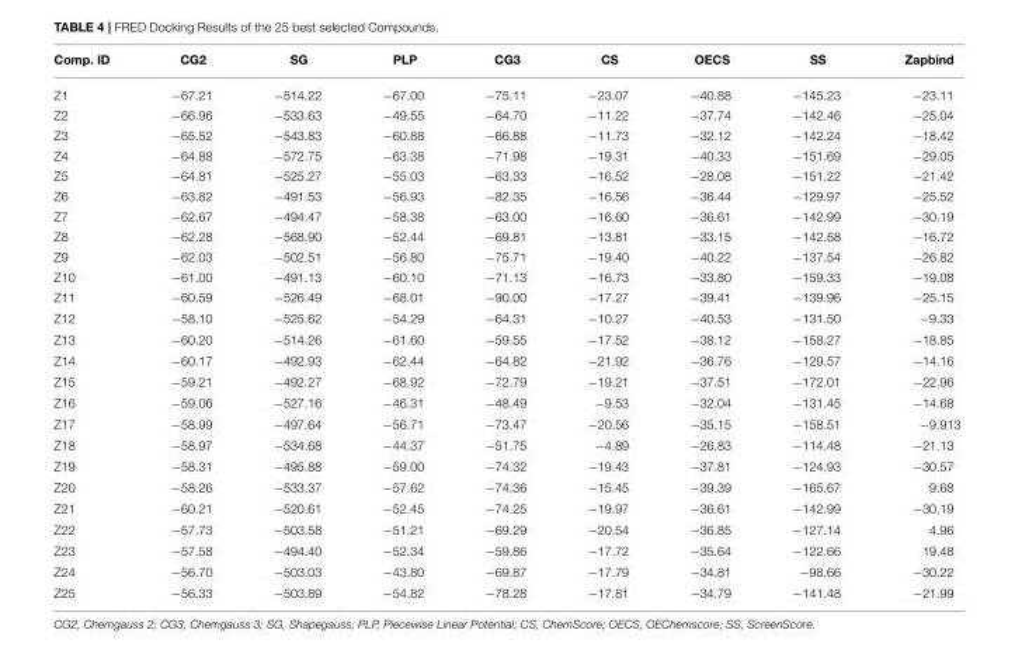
<table><thead><tr><td>Comp. ID</td><td>CG2</td><td>SG</td><td>PLP</td><td>CG3</td><td>CS</td><td>OECS</td><td>SS</td><td>Zapbind</td></tr></thead><tbody><tr><td>Z1</td><td>−67.21</td><td>−514.22</td><td>−67.00</td><td>−75.11</td><td>−23.07</td><td>−40.88</td><td>−145.23</td><td>−23.11</td></tr><tr><td>Z2</td><td>−66.96</td><td>−533.63</td><td>−49.55</td><td>−64.70</td><td>−11.22</td><td>−37.74</td><td>−142.46</td><td>−25.04</td></tr><tr><td>Z3</td><td>−65.52</td><td>−543.83</td><td>−60.88</td><td>−66.88</td><td>−11.73</td><td>−32.12</td><td>−142.24</td><td>−18.42</td></tr><tr><td>Z4</td><td>−64.88</td><td>−572.75</td><td>−63.38</td><td>−71.98</td><td>−19.31</td><td>−40.33</td><td>−151.69</td><td>−29.05</td></tr><tr><td>Z5</td><td>−64.81</td><td>−525.27</td><td>−55.03</td><td>−63.33</td><td>−16.52</td><td>−28.08</td><td>−151.22</td><td>−21.42</td></tr><tr><td>Z6</td><td>−63.82</td><td>−491.53</td><td>−56.93</td><td>−82.35</td><td>−16.56</td><td>−36.44</td><td>−129.97</td><td>−25.52</td></tr><tr><td>Z7</td><td>−62.67</td><td>−494.47</td><td>−58.38</td><td>−63.00</td><td>−16.60</td><td>−36.61</td><td>−142.99</td><td>−30.19</td></tr><tr><td>Z8</td><td>−62.28</td><td>−568.90</td><td>−52.44</td><td>−69.81</td><td>−13.81</td><td>−33.15</td><td>−142.58</td><td>−16.72</td></tr><tr><td>Z9</td><td>−62.03</td><td>−502.51</td><td>−56.80</td><td>−75.71</td><td>−19.40</td><td>−40.22</td><td>−137.54</td><td>−26.82</td></tr><tr><td>Z10</td><td>−61.00</td><td>−491.13</td><td>−60.10</td><td>−71.13</td><td>−16.73</td><td>−33.80</td><td>−159.33</td><td>−19.08</td></tr><tr><td>Z11</td><td>−60.59</td><td>−526.49</td><td>−68.01</td><td>−90.00</td><td>−17.27</td><td>−39.41</td><td>−139.96</td><td>−25.15</td></tr><tr><td>Z12</td><td>−58.10</td><td>−525.62</td><td>−54.29</td><td>−64.31</td><td>−10.27</td><td>−40.53</td><td>−131.50</td><td>−9.33</td></tr><tr><td>Z13</td><td>−60.20</td><td>−514.26</td><td>−61.60</td><td>−59.55</td><td>−17.52</td><td>−38.12</td><td>−158.27</td><td>−18.85</td></tr><tr><td>Z14</td><td>−60.17</td><td>−492.93</td><td>−62.44</td><td>−64.82</td><td>−21.92</td><td>−36.76</td><td>−129.57</td><td>−14.16</td></tr><tr><td>Z15</td><td>−59.21</td><td>−492.27</td><td>−68.92</td><td>−72.79</td><td>−19.21</td><td>−37.51</td><td>−172.01</td><td>−22.96</td></tr><tr><td>Z16</td><td>−59.06</td><td>−527.16</td><td>−46.31</td><td>−48.49</td><td>−9.53</td><td>−32.04</td><td>−131.45</td><td>−14.68</td></tr><tr><td>Z17</td><td>−58.99</td><td>−497.64</td><td>−56.71</td><td>−73.47</td><td>−20.56</td><td>−35.15</td><td>−158.51</td><td>−9.913</td></tr><tr><td>Z18</td><td>−58.97</td><td>−534.68</td><td>−44.37</td><td>−51.75</td><td>−4.89</td><td>−26.83</td><td>−114.48</td><td>−21.13</td></tr><tr><td>Z19</td><td>−58.31</td><td>−495.88</td><td>−59.00</td><td>−74.32</td><td>−19.43</td><td>−37.81</td><td>−124.93</td><td>−30.57</td></tr><tr><td>Z20</td><td>−58.26</td><td>−533.37</td><td>−57.62</td><td>−74.36</td><td>−15.45</td><td>−39.39</td><td>−165.67</td><td>9.68</td></tr><tr><td>Z21</td><td>−60.21</td><td>−520.61</td><td>−52.45</td><td>−74.25</td><td>−19.97</td><td>−36.61</td><td>−142.99</td><td>−30.19</td></tr><tr><td>Z22</td><td>−57.73</td><td>−503.58</td><td>−51.21</td><td>−69.29</td><td>−20.54</td><td>−36.85</td><td>−127.14</td><td>4.96</td></tr><tr><td>Z23</td><td>−57.58</td><td>−494.40</td><td>−52.34</td><td>−59.86</td><td>−17.72</td><td>−35.64</td><td>−122.66</td><td>19.48</td></tr><tr><td>Z24</td><td>−56.70</td><td>−503.03</td><td>−43.80</td><td>−69.87</td><td>−17.79</td><td>−34.81</td><td>−98.66</td><td>−30.22</td></tr><tr><td>Z25</td><td>−56.33</td><td>−503.89</td><td>−54.82</td><td>−78.28</td><td>−17.81</td><td>−34.79</td><td>−141.48</td><td>−21.99</td></tr></tbody></table>